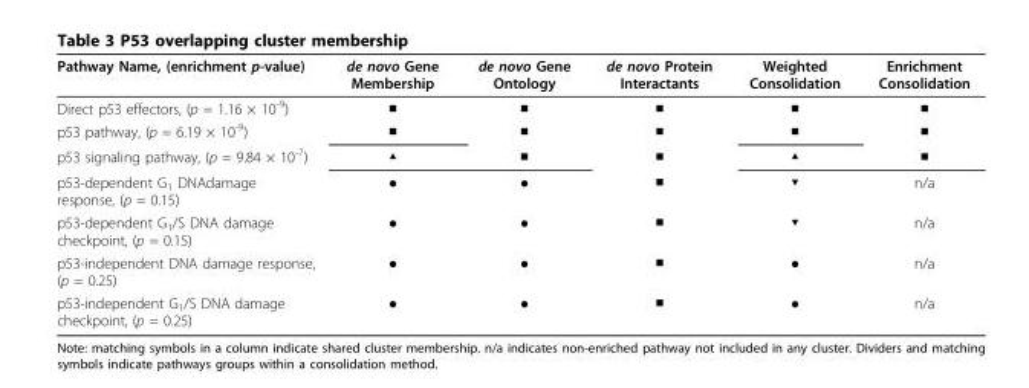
<table><thead><tr><td>Pathway Name, (enrichment p-value)</td><td>de novo Gene Membership</td><td>de novo Gene Ontology</td><td>de novo Protein Interactants</td><td>Weighted Consolidation</td><td>Enrichment Consolidation</td></tr></thead><tbody><tr><td>Direct p53 effectors, (p = 1.16 × 10<sup>-9</sup>)</td><td>■</td><td>■</td><td>■</td><td>■</td><td>■</td></tr><tr><td>p53 pathway, (p = 6.19 × 10<sup>-9</sup>)</td><td>■</td><td>■</td><td>■</td><td>■</td><td>■</td></tr><tr><td>p53 signaling pathway, (p = 9.84 × 10<sup>-7</sup>)</td><td>▲</td><td>■</td><td>■</td><td>▲</td><td>■</td></tr><tr><td>p53-dependent G<sub>1</sub> DNAdamage response, (p = 0.15)</td><td>●</td><td>●</td><td>■</td><td>▼</td><td>n/a</td></tr><tr><td>p53-dependent G<sub>1</sub>/S DNA damage checkpoint, (p = 0.15)</td><td>●</td><td>●</td><td>■</td><td>▼</td><td>n/a</td></tr><tr><td>p53-independent DNA damage response, (p = 0.25)</td><td>●</td><td>●</td><td>■</td><td>●</td><td>n/a</td></tr><tr><td>p53-independent G<sub>1</sub>/S DNA damage checkpoint, (p = 0.25)</td><td>●</td><td>●</td><td>■</td><td>●</td><td>n/a</td></tr></tbody></table>